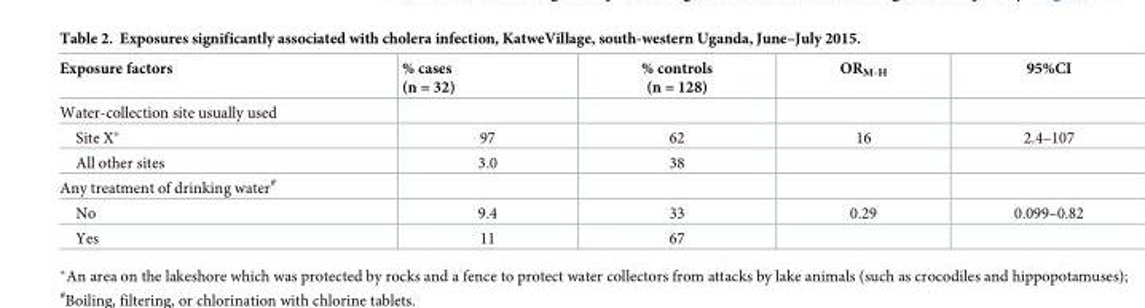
<table><thead><tr><td>Exposure factors</td><td>% cases (n = 32)</td><td>% controls (n = 128)</td><td>OR<sub>M-H</sub></td><td>95%CI</td></tr></thead><tbody><tr><td colspan="5">Water-collection site usually used</td></tr><tr><td>Site X*</td><td>97</td><td>62</td><td>16</td><td>2.4–107</td></tr><tr><td>All other sites</td><td>3.0</td><td>38</td><td></td><td></td></tr><tr><td colspan="5">Any treatment of drinking water<sup>#</sup></td></tr><tr><td>No</td><td>9.4</td><td>33</td><td>0.29</td><td>0.099–0.82</td></tr><tr><td>Yes</td><td>11</td><td>67</td><td></td><td></td></tr></tbody></table>